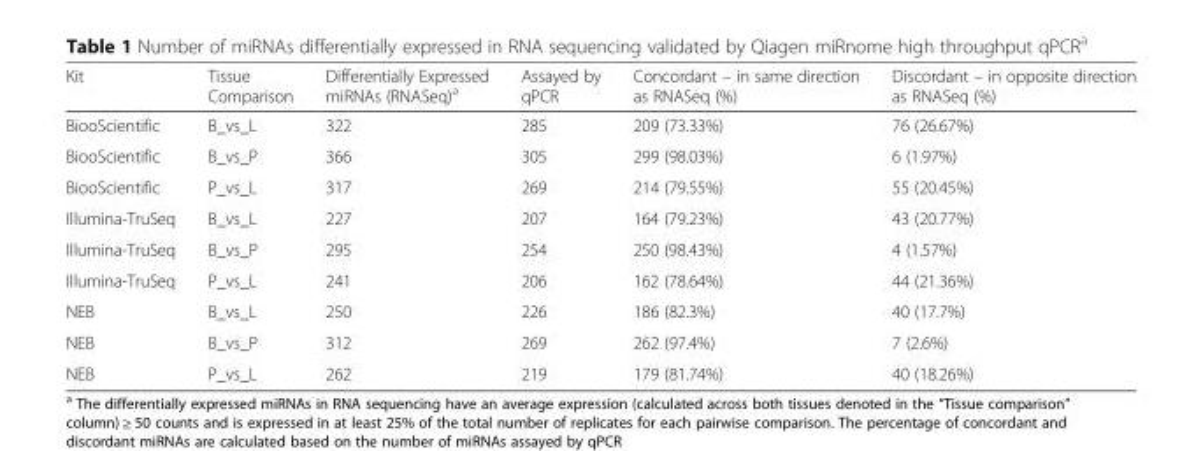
<table><thead><tr><td>Kit</td><td>Tissue Comparison</td><td>Differentially Expressed miRNAs (RNASeq)<sup>a</sup></td><td>Assayed by qPCR</td><td>Concordant – in same direction as RNASeq (%)</td><td>Discordant – in opposite direction as RNASeq (%)</td></tr></thead><tbody><tr><td>BiooScientific</td><td>B_vs_L</td><td>322</td><td>285</td><td>209 (73.33%)</td><td>76 (26.67%)</td></tr><tr><td>BiooScientific</td><td>B_vs_P</td><td>366</td><td>305</td><td>299 (98.03%)</td><td>6 (1.97%)</td></tr><tr><td>BiooScientific</td><td>P_vs_L</td><td>317</td><td>269</td><td>214 (79.55%)</td><td>55 (20.45%)</td></tr><tr><td>Illumina-TruSeq</td><td>B_vs_L</td><td>227</td><td>207</td><td>164 (79.23%)</td><td>43 (20.77%)</td></tr><tr><td>Illumina-TruSeq</td><td>B_vs_P</td><td>295</td><td>254</td><td>250 (98.43%)</td><td>4 (1.57%)</td></tr><tr><td>Illumina-TruSeq</td><td>P_vs_L</td><td>241</td><td>206</td><td>162 (78.64%)</td><td>44 (21.36%)</td></tr><tr><td>NEB</td><td>B_vs_L</td><td>250</td><td>226</td><td>186 (82.3%)</td><td>40 (17.7%)</td></tr><tr><td>NEB</td><td>B_vs_P</td><td>312</td><td>269</td><td>262 (97.4%)</td><td>7 (2.6%)</td></tr><tr><td>NEB</td><td>P_vs_L</td><td>262</td><td>219</td><td>179 (81.74%)</td><td>40 (18.26%)</td></tr></tbody></table>